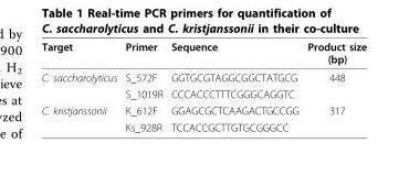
<table><thead><tr><td>Target</td><td>Primer</td><td>Sequence</td><td>Product size (bp)</td></tr></thead><tbody><tr><td rowspan="2">C. saccharolyticus</td><td>S_572F</td><td>GGTGCGTAGGCGGCTATGCG</td><td>448</td></tr><tr><td>S_1019R</td><td>CCCACCCTTTCGGGCAGGTC</td><td></td></tr><tr><td rowspan="2">C. kristjanssonii</td><td>K_612F</td><td>GGAGCGCTCAAGACTGCCGG</td><td>317</td></tr><tr><td>Ks_928R</td><td>TCCACCGCTTGTGCGGGCC</td><td></td></tr></tbody></table>